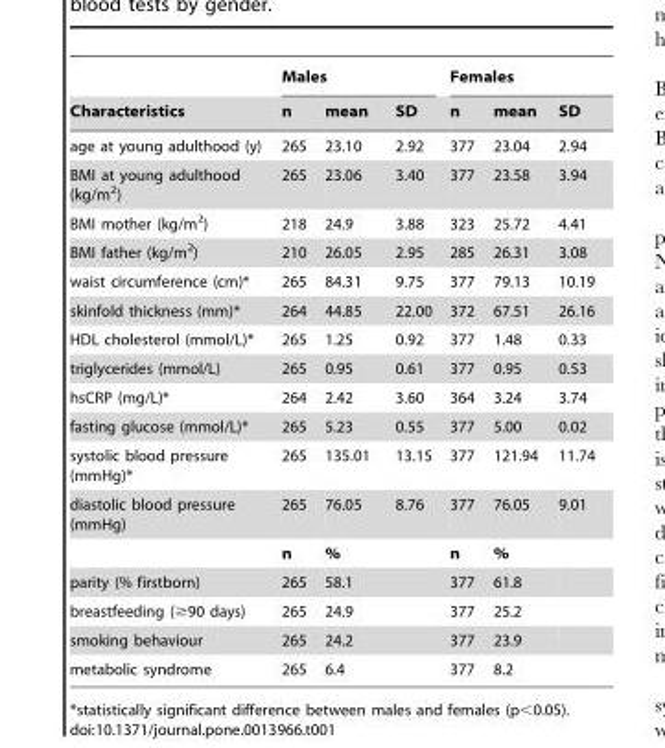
<table><thead><tr><td rowspan="2">Characteristics</td><td colspan="3">Males</td><td colspan="3">Females</td></tr><tr><td>n</td><td>mean</td><td>SD</td><td>n</td><td>mean</td><td>SD</td></tr></thead><tbody><tr><td>age at young adulthood (y)</td><td>265</td><td>23.10</td><td>2.92</td><td>377</td><td>23.04</td><td>2.94</td></tr><tr><td>BMI at young adulthood (kg/m<sup>2</sup>)</td><td>265</td><td>23.06</td><td>3.40</td><td>377</td><td>23.58</td><td>3.94</td></tr><tr><td>BMI mother (kg/m<sup>2</sup>)</td><td>218</td><td>24.9</td><td>3.88</td><td>323</td><td>25.72</td><td>4.41</td></tr><tr><td>BMI father (kg/m<sup>2</sup>)</td><td>210</td><td>26.05</td><td>2.95</td><td>285</td><td>26.31</td><td>3.08</td></tr><tr><td>waist circumference (cm)*</td><td>265</td><td>84.31</td><td>9.75</td><td>377</td><td>79.13</td><td>10.19</td></tr><tr><td>skinfold thickness (mm)*</td><td>264</td><td>44.85</td><td>22.00</td><td>372</td><td>67.51</td><td>26.16</td></tr><tr><td>HDL cholesterol (mmol/L)*</td><td>265</td><td>1.25</td><td>0.92</td><td>377</td><td>1.48</td><td>0.33</td></tr><tr><td>triglycerides (mmol/L)</td><td>265</td><td>0.95</td><td>0.61</td><td>377</td><td>0.95</td><td>0.53</td></tr><tr><td>hsCRP (mg/L)*</td><td>264</td><td>2.42</td><td>3.60</td><td>364</td><td>3.24</td><td>3.74</td></tr><tr><td>fasting glucose (mmol/L)*</td><td>265</td><td>5.23</td><td>0.55</td><td>377</td><td>5.00</td><td>0.02</td></tr><tr><td>systolic blood pressure (mmHg)*</td><td>265</td><td>135.01</td><td>13.15</td><td>377</td><td>121.94</td><td>11.74</td></tr><tr><td rowspan="2">diastolic blood pressure (mmHg)</td><td>265</td><td>76.05</td><td>8.76</td><td>377</td><td>76.05</td><td>9.01</td></tr><tr><td>n</td><td>%</td><td></td><td>n</td><td>%</td><td></td></tr><tr><td>parity (% firstborn)</td><td>265</td><td>58.1</td><td></td><td>377</td><td>61.8</td><td></td></tr><tr><td>breastfeeding (≥90 days)</td><td>265</td><td>24.9</td><td></td><td>377</td><td>25.2</td><td></td></tr><tr><td>smoking behaviour</td><td>265</td><td>24.2</td><td></td><td>377</td><td>23.9</td><td></td></tr><tr><td>metabolic syndrome</td><td>265</td><td>6.4</td><td></td><td>377</td><td>8.2</td><td></td></tr></tbody></table>